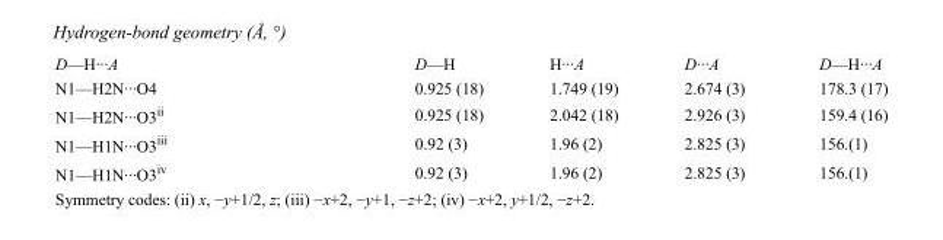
<table><tbody><tr><td>D—H···A</td><td>D—H</td><td>H···A</td><td>D···A</td><td>D—H···A</td></tr><tr><td>N1—H2N···O4</td><td>0.925 (18)</td><td>1.749 (19)</td><td>2.674 (3)</td><td>178.3 (17)</td></tr><tr><td>N1—H2N···O3<sup>ii</sup></td><td>0.925 (18)</td><td>2.042 (18)</td><td>2.926 (3)</td><td>159.4 (16)</td></tr><tr><td>N1—H1N···O3<sup>iii</sup></td><td>0.92 (3)</td><td>1.96 (2)</td><td>2.825 (3)</td><td>156.(1)</td></tr><tr><td>N1—H1N···O3<sup>iv</sup></td><td>0.92 (3)</td><td>1.96 (2)</td><td>2.825 (3)</td><td>156.(1)</td></tr></tbody></table>